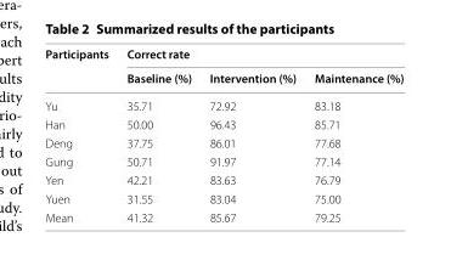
<table><thead><tr><td rowspan="2">Participants</td><td colspan="3">Correct rate</td></tr><tr><td>Baseline (%)</td><td>Intervention (%)</td><td>Maintenance (%)</td></tr></thead><tbody><tr><td>Yu</td><td>35.71</td><td>72.92</td><td>83.18</td></tr><tr><td>Han</td><td>50.00</td><td>96.43</td><td>85.71</td></tr><tr><td>Deng</td><td>37.75</td><td>86.01</td><td>77.68</td></tr><tr><td>Gung</td><td>50.71</td><td>91.97</td><td>77.14</td></tr><tr><td>Yen</td><td>42.21</td><td>83.63</td><td>76.79</td></tr><tr><td>Yuen</td><td>31.55</td><td>83.04</td><td>75.00</td></tr><tr><td>Mean</td><td>41.32</td><td>85.67</td><td>79.25</td></tr></tbody></table>